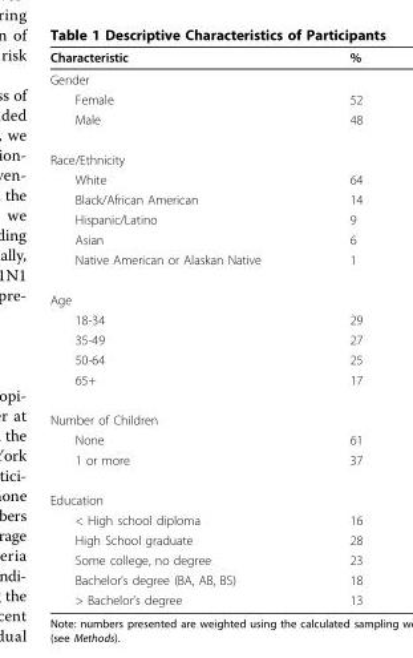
<table><thead><tr><td>Characteristic</td><td>%</td></tr></thead><tbody><tr><td colspan="2">Gender</td></tr><tr><td>Female</td><td>52</td></tr><tr><td>Male</td><td>48</td></tr><tr><td colspan="2">Race/Ethnicity</td></tr><tr><td>White</td><td>64</td></tr><tr><td>Black/African American</td><td>14</td></tr><tr><td>Hispanic/Latino</td><td>9</td></tr><tr><td>Asian</td><td>6</td></tr><tr><td>Native American or Alaskan Native</td><td>1</td></tr><tr><td colspan="2">Age</td></tr><tr><td>18-34</td><td>29</td></tr><tr><td>35-49</td><td>27</td></tr><tr><td>50-64</td><td>25</td></tr><tr><td>65+</td><td>17</td></tr><tr><td colspan="2">Number of Children</td></tr><tr><td>None</td><td>61</td></tr><tr><td>1 or more</td><td>37</td></tr><tr><td colspan="2">Education</td></tr><tr><td>&lt; High school diploma</td><td>16</td></tr><tr><td>High School graduate</td><td>28</td></tr><tr><td>Some college, no degree</td><td>23</td></tr><tr><td>Bachelor’s degree (BA, AB, BS)</td><td>18</td></tr><tr><td>&gt; Bachelor’s degree</td><td>13</td></tr></tbody></table>